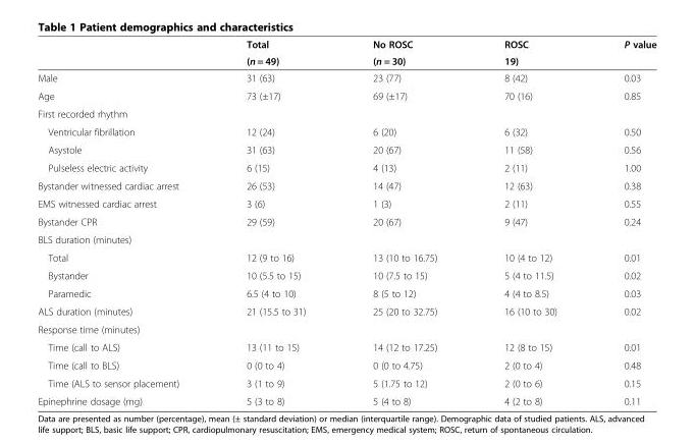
<table><thead><tr><td rowspan="2"></td><td rowspan="2">Total (n = 49)</td><td rowspan="2">No ROSC (n = 30)</td><td rowspan="2">ROSC 19)</td><td rowspan="2">P value</td></tr><tr></tr></thead><tbody><tr><td>Male</td><td>31 (63)</td><td>23 (77)</td><td>8 (42)</td><td>0.03</td></tr><tr><td>Age</td><td>73 (±17)</td><td>69 (±17)</td><td>70 (16)</td><td>0.85</td></tr><tr><td colspan="5">First recorded rhythm</td></tr><tr><td>Ventricular fibrillation</td><td>12 (24)</td><td>6 (20)</td><td>6 (32)</td><td>0.50</td></tr><tr><td>Asystole</td><td>31 (63)</td><td>20 (67)</td><td>11 (58)</td><td>0.56</td></tr><tr><td>Pulseless electric activity</td><td>6 (15)</td><td>4 (13)</td><td>2 (11)</td><td>1.00</td></tr><tr><td>Bystander witnessed cardiac arrest</td><td>26 (53)</td><td>14 (47)</td><td>12 (63)</td><td>0.38</td></tr><tr><td>EMS witnessed cardiac arrest</td><td>3 (6)</td><td>1 (3)</td><td>2 (11)</td><td>0.55</td></tr><tr><td>Bystander CPR</td><td>29 (59)</td><td>20 (67)</td><td>9 (47)</td><td>0.24</td></tr><tr><td colspan="5">BLS duration (minutes)</td></tr><tr><td>Total</td><td>12 (9 to 16)</td><td>13 (10 to 16.75)</td><td>10 (4 to 12)</td><td>0.01</td></tr><tr><td>Bystander</td><td>10 (5.5 to 15)</td><td>10 (7.5 to 15)</td><td>5 (4 to 11.5)</td><td>0.02</td></tr><tr><td>Paramedic</td><td>6.5 (4 to 10)</td><td>8 (5 to 12)</td><td>4 (4 to 8.5)</td><td>0.03</td></tr><tr><td>ALS duration (minutes)</td><td>21 (15.5 to 31)</td><td>25 (20 to 32.75)</td><td>16 (10 to 30)</td><td>0.02</td></tr><tr><td colspan="5">Response time (minutes)</td></tr><tr><td>Time (call to ALS)</td><td>13 (11 to 15)</td><td>14 (12 to 17.25)</td><td>12 (8 to 15)</td><td>0.01</td></tr><tr><td>Time (call to BLS)</td><td>0 (0 to 4)</td><td>0 (0 to 4.75)</td><td>2 (0 to 4)</td><td>0.48</td></tr><tr><td>Time (ALS to sensor placement)</td><td>3 (1 to 9)</td><td>5 (1.75 to 12)</td><td>2 (0 to 6)</td><td>0.15</td></tr><tr><td>Epinephrine dosage (mg)</td><td>5 (3 to 8)</td><td>5 (4 to 8)</td><td>4 (2 to 8)</td><td>0.11</td></tr></tbody></table>